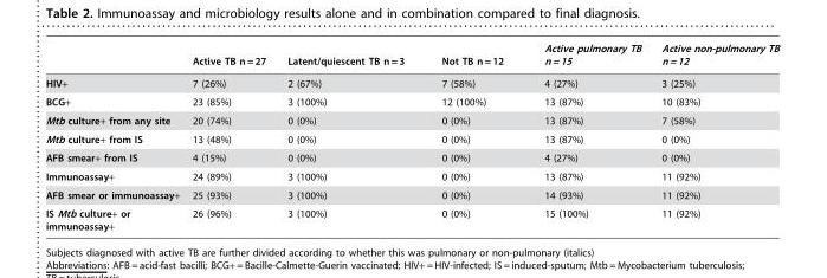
<table><thead><tr><td></td><td>Active TB n = 27</td><td>Latent/quiescent TB n = 3</td><td>Not TB n = 12</td><td>Active pulmonary TB n = 15</td><td>Active non-pulmonary TB n = 12</td></tr></thead><tbody><tr><td>HIV+</td><td>7 (26%)</td><td>2 (67%)</td><td>7 (58%)</td><td>4 (27%)</td><td>3 (25%)</td></tr><tr><td>BCG+</td><td>23 (85%)</td><td>3 (100%)</td><td>12 (100%)</td><td>13 (87%)</td><td>10 (83%)</td></tr><tr><td>Mtb culture+ from any site</td><td>20 (74%)</td><td>0 (0%)</td><td>0 (0%)</td><td>13 (87%)</td><td>7 (58%)</td></tr><tr><td>Mtb culture+ from IS</td><td>13 (48%)</td><td>0 (0%)</td><td>0 (0%)</td><td>13 (87%)</td><td>0 (0%)</td></tr><tr><td>AFB smear+ from IS</td><td>4 (15%)</td><td>0 (0%)</td><td>0 (0%)</td><td>4 (27%)</td><td>0 (0%)</td></tr><tr><td>Immunoassay+</td><td>24 (89%)</td><td>3 (100%)</td><td>0 (0%)</td><td>13 (87%)</td><td>11 (92%)</td></tr><tr><td>AFB smear or immunoassay+</td><td>25 (93%)</td><td>3 (100%)</td><td>0 (0%)</td><td>14 (93%)</td><td>11 (92%)</td></tr><tr><td>IS Mtb culture+ or immunoassay+</td><td>26 (96%)</td><td>3 (100%)</td><td>0 (0%)</td><td>15 (100%)</td><td>11 (92%)</td></tr></tbody></table>